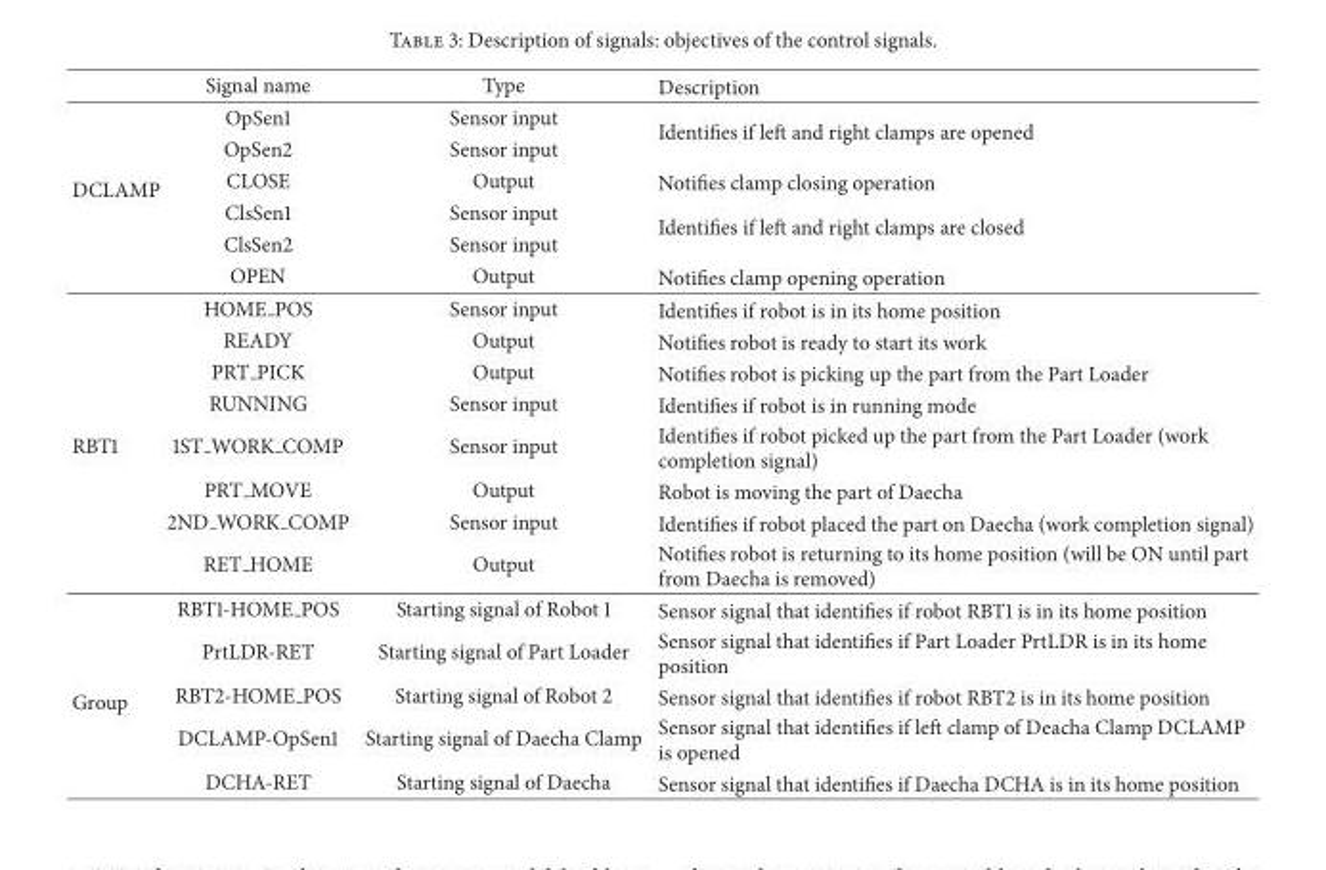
<table><thead><tr><td></td><td>Signal name</td><td>Type</td><td>Description</td></tr></thead><tbody><tr><td rowspan="6">DCLAMP</td><td>OpSen1</td><td>Sensor input</td><td rowspan="2">Identifies if left and right clamps are opened</td></tr><tr><td>OpSen2</td><td>Sensor input</td></tr><tr><td>CLOSE</td><td>Output</td><td>Notifies clamp closing operation</td></tr><tr><td>ClsSen1</td><td>Sensor input</td><td rowspan="2">Identifies if left and right clamps are closed</td></tr><tr><td>ClsSen2</td><td>Sensor input</td></tr><tr><td>OPEN</td><td>Output</td><td>Notifies clamp opening operation</td></tr><tr><td rowspan="8">RBT1</td><td>HOME POS</td><td>Sensor input</td><td>Identifies if robot is in its home position</td></tr><tr><td>READY</td><td>Output</td><td>Notifies robot is ready to start its work</td></tr><tr><td>PRT PICK</td><td>Output</td><td>Notifies robot is picking up the part from the Part Loader</td></tr><tr><td>RUNNING</td><td>Sensor input</td><td>Identifies if robot is in running mode</td></tr><tr><td>1ST <sub>WORK</sub> COMP</td><td>Sensor input</td><td>Identifies if robot picked up the part from the Part Loader (work completion signal)</td></tr><tr><td>PRT MOVE</td><td>Output</td><td>Robot is moving the part of Daecha</td></tr><tr><td>2ND <sub>WORK</sub> COMP</td><td>Sensor input</td><td>Identifies if robot placed the part on Daecha (work completion signal)</td></tr><tr><td>RET HOME</td><td>Output</td><td>Notifies robot is returning to its home position (will be ON until part from Daecha is removed)</td></tr><tr><td rowspan="5">Group</td><td>RBT1-HOME POS</td><td>Starting signal of Robot 1</td><td>Sensor signal that identifies if robot RBT1 is in its home position</td></tr><tr><td>PrtLDR-RET</td><td>Starting signal of Part Loader</td><td>Sensor signal that identifies if Part Loader PrtLDR is in its home position</td></tr><tr><td>RBT2-HOME POS</td><td>Starting signal of Robot 2</td><td>Sensor signal that identifies if robot RBT2 is in its home position</td></tr><tr><td>DCLAMP-OpSen1</td><td>Starting signal of Daecha Clamp</td><td>Sensor signal that identifies if left clamp of Deacha Clamp DCLAMP is opened</td></tr><tr><td>DCHA-RET</td><td>Starting signal of Daecha</td><td>Sensor signal that identifies if Daecha DCHA is in its home position</td></tr></tbody></table>